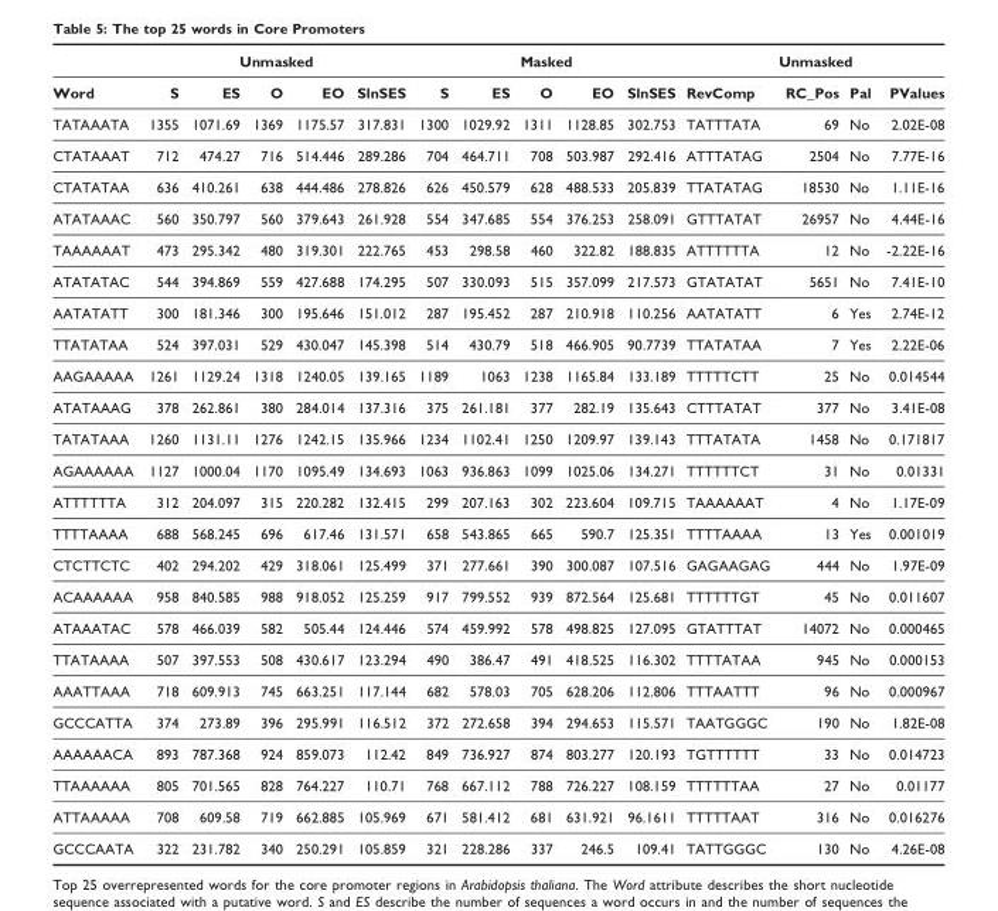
<table><thead><tr><td rowspan="2">Word</td><td colspan="5">Unmasked</td><td colspan="5">Masked</td><td colspan="4">Unmasked</td></tr><tr><td>S</td><td>ES</td><td>O</td><td>EO</td><td>SlnSES</td><td>S</td><td>ES</td><td>O</td><td>EO</td><td>SlnSES</td><td>RevComp</td><td>RC_Pos</td><td>Pal</td><td>PValues</td></tr></thead><tbody><tr><td>TATAAATA</td><td>1355</td><td>1071.69</td><td>1369</td><td>1175.57</td><td>317.831</td><td>1300</td><td>1029.92</td><td>1311</td><td>1128.85</td><td>302.753</td><td>TATTTATA</td><td>69</td><td>No</td><td>2.02E-08</td></tr><tr><td>CTATAAAT</td><td>712</td><td>474.27</td><td>716</td><td>514.446</td><td>289.286</td><td>704</td><td>464.711</td><td>708</td><td>503.987</td><td>292.416</td><td>ATTTATAG</td><td>2504</td><td>No</td><td>7.77E-16</td></tr><tr><td>CTATATAA</td><td>636</td><td>410.261</td><td>638</td><td>444.486</td><td>278.826</td><td>626</td><td>450.579</td><td>628</td><td>488.533</td><td>205.839</td><td>TTATATAG</td><td>18530</td><td>No</td><td>1.11E-16</td></tr><tr><td>ATATAAAC</td><td>560</td><td>350.797</td><td>560</td><td>379.643</td><td>261.928</td><td>554</td><td>347.685</td><td>554</td><td>376.253</td><td>258.091</td><td>GTTTATAT</td><td>26957</td><td>No</td><td>4.44E-16</td></tr><tr><td>TAAAAAAT</td><td>473</td><td>295.342</td><td>480</td><td>319.301</td><td>222.765</td><td>453</td><td>298.58</td><td>460</td><td>322.82</td><td>188.835</td><td>ATTTTTTA</td><td>12</td><td>No</td><td>-2.22E-16</td></tr><tr><td>ATATATAC</td><td>544</td><td>394.869</td><td>559</td><td>427.688</td><td>174.295</td><td>507</td><td>330.093</td><td>515</td><td>357.099</td><td>217.573</td><td>GTATATAT</td><td>5651</td><td>No</td><td>7.41E-10</td></tr><tr><td>AATATATT</td><td>300</td><td>181.346</td><td>300</td><td>195.646</td><td>151.012</td><td>287</td><td>195.452</td><td>287</td><td>210.918</td><td>110.256</td><td>AATATATT</td><td>6</td><td>Yes</td><td>2.74E-12</td></tr><tr><td>TTATATAA</td><td>524</td><td>397.031</td><td>529</td><td>430.047</td><td>145.398</td><td>514</td><td>430.79</td><td>518</td><td>466.905</td><td>90.7739</td><td>TTATATAA</td><td>7</td><td>Yes</td><td>2.22E-06</td></tr><tr><td>AAGAAAAA</td><td>1261</td><td>1129.24</td><td>1318</td><td>1240.05</td><td>139.165</td><td>1189</td><td>1063</td><td>1238</td><td>1165.84</td><td>133.189</td><td>TTTTTCTT</td><td>25</td><td>No</td><td>0.014544</td></tr><tr><td>ATATAAAG</td><td>378</td><td>262.861</td><td>380</td><td>284.014</td><td>137.316</td><td>375</td><td>261.181</td><td>377</td><td>282.19</td><td>135.643</td><td>CTTTATAT</td><td>377</td><td>No</td><td>3.41E-08</td></tr><tr><td>TATATAAA</td><td>1260</td><td>1131.11</td><td>1276</td><td>1242.15</td><td>135.966</td><td>1234</td><td>1102.41</td><td>1250</td><td>1209.97</td><td>139.143</td><td>TTTATATA</td><td>1458</td><td>No</td><td>0.171817</td></tr><tr><td>AGAAAAAA</td><td>1127</td><td>1000.04</td><td>1170</td><td>1095.49</td><td>134.693</td><td>1063</td><td>936.863</td><td>1099</td><td>1025.06</td><td>134.271</td><td>TTTTTTCT</td><td>31</td><td>No</td><td>0.01331</td></tr><tr><td>ATTTTTTA</td><td>312</td><td>204.097</td><td>315</td><td>220.282</td><td>132.415</td><td>299</td><td>207.163</td><td>302</td><td>223.604</td><td>109.715</td><td>TAAAAAAT</td><td>4</td><td>No</td><td>1.17E-09</td></tr><tr><td>TTTTAAAA</td><td>688</td><td>568.245</td><td>696</td><td>617.46</td><td>131.571</td><td>658</td><td>543.865</td><td>665</td><td>590.7</td><td>125.351</td><td>TTTTAAAA</td><td>13</td><td>Yes</td><td>0.001019</td></tr><tr><td>CTCTTCTC</td><td>402</td><td>294.202</td><td>429</td><td>318.061</td><td>125.499</td><td>371</td><td>277.661</td><td>390</td><td>300.087</td><td>107.516</td><td>GAGAAGAG</td><td>444</td><td>No</td><td>1.97E-09</td></tr><tr><td>ACAAAAAA</td><td>958</td><td>840.585</td><td>988</td><td>918.052</td><td>125.259</td><td>917</td><td>799.552</td><td>939</td><td>872.564</td><td>125.681</td><td>TTTTTTGT</td><td>45</td><td>No</td><td>0.011607</td></tr><tr><td>ATAAATAC</td><td>578</td><td>466.039</td><td>582</td><td>505.44</td><td>124.446</td><td>574</td><td>459.992</td><td>578</td><td>498.825</td><td>127.095</td><td>GTATTTAT</td><td>14072</td><td>No</td><td>0.000465</td></tr><tr><td>TTATAAAA</td><td>507</td><td>397.553</td><td>508</td><td>430.617</td><td>123.294</td><td>490</td><td>386.47</td><td>491</td><td>418.525</td><td>116.302</td><td>TTTTATAA</td><td>945</td><td>No</td><td>0.000153</td></tr><tr><td>AAATTAAA</td><td>718</td><td>609.913</td><td>745</td><td>663.251</td><td>117.144</td><td>682</td><td>578.03</td><td>705</td><td>628.206</td><td>112.806</td><td>TTTAATTT</td><td>96</td><td>No</td><td>0.000967</td></tr><tr><td>GCCCATTA</td><td>374</td><td>273.89</td><td>396</td><td>295.991</td><td>116.512</td><td>372</td><td>272.658</td><td>394</td><td>294.653</td><td>115.571</td><td>TAATGGGC</td><td>190</td><td>No</td><td>1.82E-08</td></tr><tr><td>AAAAAACA</td><td>893</td><td>787.368</td><td>924</td><td>859.073</td><td>112.42</td><td>849</td><td>736.927</td><td>874</td><td>803.277</td><td>120.193</td><td>TGTTTTTT</td><td>33</td><td>No</td><td>0.014723</td></tr><tr><td>TTAAAAAA</td><td>805</td><td>701.565</td><td>828</td><td>764.227</td><td>110.71</td><td>768</td><td>667.112</td><td>788</td><td>726.227</td><td>108.159</td><td>TTTTTTAA</td><td>27</td><td>No</td><td>0.01177</td></tr><tr><td>ATTAAAAA</td><td>708</td><td>609.58</td><td>719</td><td>662.885</td><td>105.969</td><td>671</td><td>581.412</td><td>681</td><td>631.921</td><td>96.1611</td><td>TTTTTAAT</td><td>316</td><td>No</td><td>0.016276</td></tr><tr><td>GCCCAATA</td><td>322</td><td>231.782</td><td>340</td><td>250.291</td><td>105.859</td><td>321</td><td>228.286</td><td>337</td><td>246.5</td><td>109.41</td><td>TATTGGGC</td><td>130</td><td>No</td><td>4.26E-08</td></tr></tbody></table>